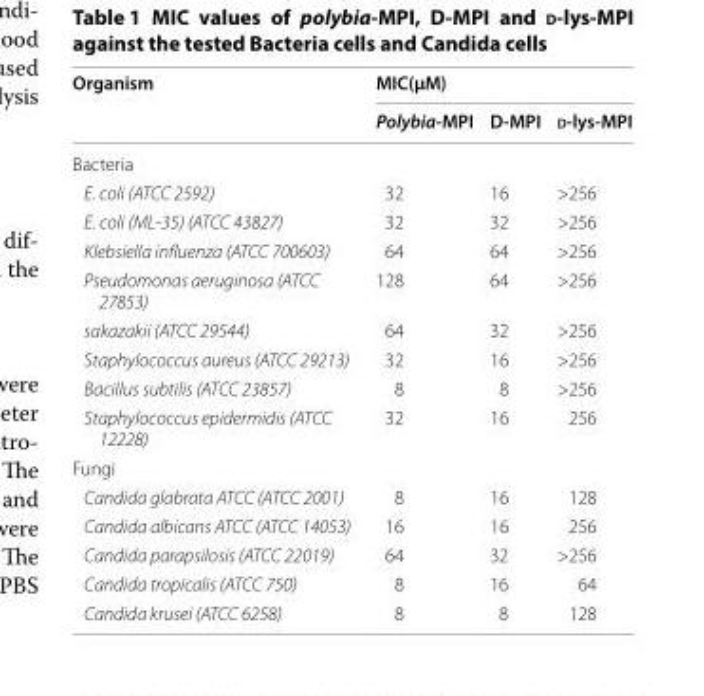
<table><thead><tr><td rowspan="2">Organism</td><td colspan="3">MIC(µM)</td></tr><tr><td>Polybia‑MPI</td><td>D‑MPI</td><td>d‑lys‑MPI</td></tr></thead><tbody><tr><td colspan="4">Bacteria</td></tr><tr><td>E. coli (ATCC 2592)</td><td>32</td><td>16</td><td>&gt;256</td></tr><tr><td>E. coli (ML-35) (ATCC 43827)</td><td>32</td><td>32</td><td>&gt;256</td></tr><tr><td>Klebsiella influenza (ATCC 700603)</td><td>64</td><td>64</td><td>&gt;256</td></tr><tr><td>Pseudomonas aeruginosa (ATCC 27853)</td><td>128</td><td>64</td><td>&gt;256</td></tr><tr><td>sakazakii (ATCC 29544)</td><td>64</td><td>32</td><td>&gt;256</td></tr><tr><td>Staphylococcus aureus (ATCC 29213)</td><td>32</td><td>16</td><td>&gt;256</td></tr><tr><td>Bacillus subtilis (ATCC 23857)</td><td>8</td><td>8</td><td>&gt;256</td></tr><tr><td>Staphylococcus epidermidis (ATCC 12228)</td><td>32</td><td>16</td><td>256</td></tr><tr><td colspan="4">Fungi</td></tr><tr><td>Candida glabrata ATCC (ATCC 2001)</td><td>8</td><td>16</td><td>128</td></tr><tr><td>Candida albicans ATCC (ATCC 14053)</td><td>16</td><td>16</td><td>256</td></tr><tr><td>Candida parapsilosis (ATCC 22019)</td><td>64</td><td>32</td><td>&gt;256</td></tr><tr><td>Candida tropicalis (ATCC 750)</td><td>8</td><td>16</td><td>64</td></tr><tr><td>Candida krusei (ATCC 6258)</td><td>8</td><td>8</td><td>128</td></tr></tbody></table>